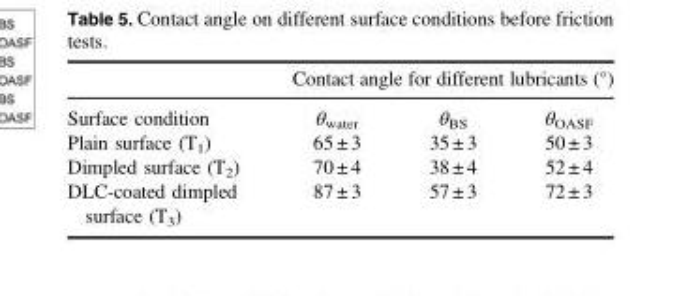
<table><thead><tr><td rowspan="2">Surface condition</td><td colspan="3">Contact angle for different lubricants (°)</td></tr><tr><td>θ<sub>water</sub></td><td>θ<sub>BS</sub></td><td>θ<sub>OASF</sub></td></tr></thead><tbody><tr><td>Plain surface (T<sub>1</sub>)</td><td>65 ± 3</td><td>35 ± 3</td><td>50 ± 3</td></tr><tr><td>Dimpled surface (T<sub>2</sub>)</td><td>70 ± 4</td><td>38 ± 4</td><td>52 ± 4</td></tr><tr><td>DLC-coated dimpled surface (T<sub>3</sub>)</td><td>87 ± 3</td><td>57 ± 3</td><td>72 ± 3</td></tr></tbody></table>